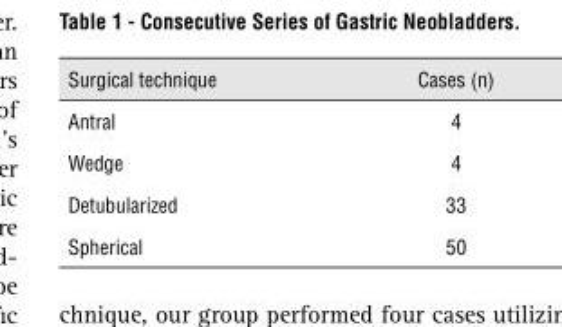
<table><thead><tr><td>Surgical technique</td><td>Cases (n)</td></tr></thead><tbody><tr><td>Antral</td><td>4</td></tr><tr><td>Wedge</td><td>4</td></tr><tr><td>Detubularized</td><td>33</td></tr><tr><td>Spherical</td><td>50</td></tr></tbody></table>